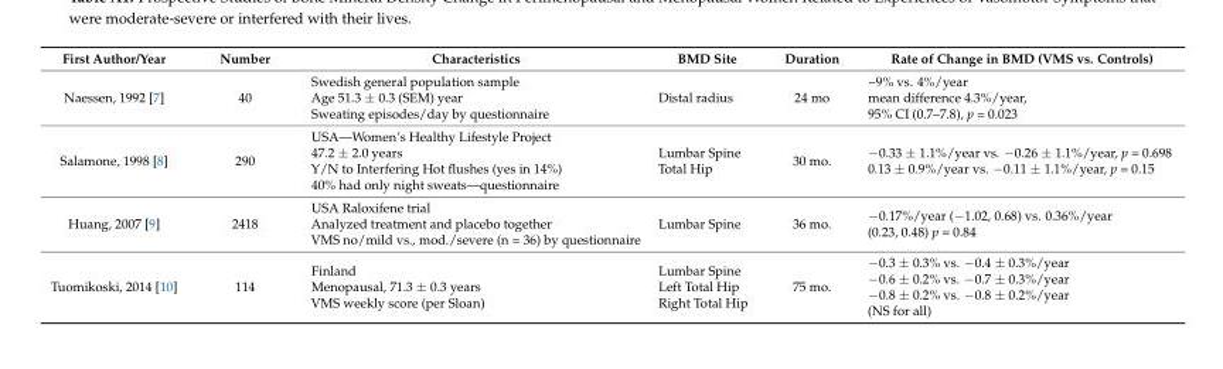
<table><thead><tr><td>First Author/Year</td><td>Number</td><td>Characteristics</td><td>BMD Site</td><td>Duration</td><td>Rate of Change in BMD (VMS vs. Controls)</td></tr></thead><tbody><tr><td>Naessen, 1992 [7]</td><td>40</td><td>Swedish general population sample Age 51.3 ± 0.3 (SEM) year Sweating episodes/day by questionnaire</td><td>Distal radius</td><td>24 mo</td><td>~9% vs. 4%/year mean difference 4.3%/year, 95% CI (0.7–7.8), p = 0.023</td></tr><tr><td>Salamone, 1998 [8]</td><td>290</td><td>USA—Women’s Healthy Lifestyle Project 47.2 ± 2.0 years Y/N to Interfering Hot flushes (yes in 14%) 40% had only night sweats—questionnaire</td><td>Lumbar Spine Total Hip</td><td>30 mo.</td><td>−0.33 ± 1.1%/year vs. −0.26 ± 1.1%/year, p = 0.698 0.13 ± 0.9%/year vs. −0.11 ± 1.1%/year, p = 0.15</td></tr><tr><td>Huang, 2007 [9]</td><td>2418</td><td>USA Raloxifene trial Analyzed treatment and placebo together VMS no/mild vs., mod./severe (n = 36) by questionnaire</td><td>Lumbar Spine</td><td>36 mo.</td><td>−0.17%/year (−1.02, 0.68) vs. 0.36%/year (0.23, 0.48) p = 0.84</td></tr><tr><td>Tuomikoski, 2014 [10]</td><td>114</td><td>Finland Menopausal, 71.3 ± 0.3 years VMS weekly score (per Sloan)</td><td>Lumbar Spine Left Total Hip Right Total Hip</td><td>75 mo.</td><td>−0.3 ± 0.3% vs. −0.4 ± 0.3%/year −0.6 ± 0.2% vs. −0.7 ± 0.3%/year −0.8 ± 0.2% vs. −0.8 ± 0.2%/year (NS for all)</td></tr></tbody></table>